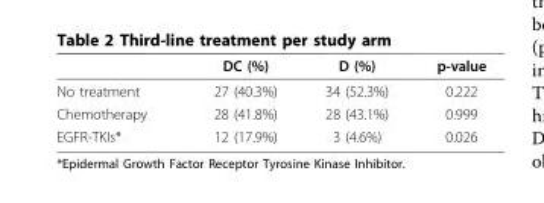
<table><thead><tr><td></td><td>DC (%)</td><td>D (%)</td><td>p-value</td></tr></thead><tbody><tr><td>No treatment</td><td>27 (40.3%)</td><td>34 (52.3%)</td><td>0.222</td></tr><tr><td>Chemotherapy</td><td>28 (41.8%)</td><td>28 (43.1%)</td><td>0.999</td></tr><tr><td>EGFR-TKIs*</td><td>12 (17.9%)</td><td>3 (4.6%)</td><td>0.026</td></tr></tbody></table>